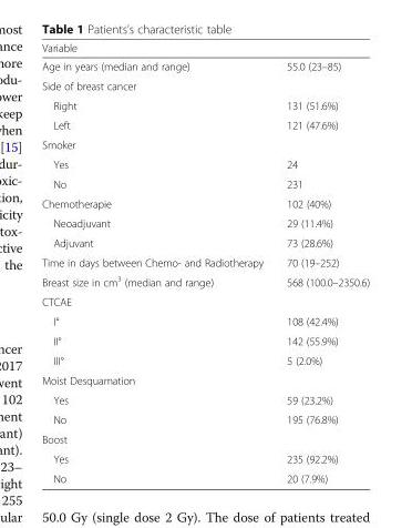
<table><thead><tr><td colspan="2">Variable</td></tr><tr><td>Age in years (median and range)</td><td>55.0 (23–85)</td></tr></thead><tbody><tr><td colspan="2">Side of breast cancer</td></tr><tr><td>Right</td><td>131 (51.6%)</td></tr><tr><td>Left</td><td>121 (47.6%)</td></tr><tr><td colspan="2">Smoker</td></tr><tr><td>Yes</td><td>24</td></tr><tr><td>No</td><td>231</td></tr><tr><td>Chemotherapie</td><td>102 (40%)</td></tr><tr><td>Neoadjuvant</td><td>29 (11.4%)</td></tr><tr><td>Adjuvant</td><td>73 (28.6%)</td></tr><tr><td>Time in days between Chemo- and Radiotherapy</td><td>70 (19–252)</td></tr><tr><td>Breast size in cm<sup>3</sup> (median and range)</td><td>568 (100.0–2350.6)</td></tr><tr><td colspan="2">CTCAE</td></tr><tr><td>I°</td><td>108 (42.4%)</td></tr><tr><td>II°</td><td>142 (55.9%)</td></tr><tr><td>III°</td><td>5 (2.0%)</td></tr><tr><td colspan="2">Moist Desquamation</td></tr><tr><td>Yes</td><td>59 (23.2%)</td></tr><tr><td>No</td><td>195 (76.8%)</td></tr><tr><td colspan="2">Boost</td></tr><tr><td>Yes</td><td>235 (92.2%)</td></tr><tr><td>No</td><td>20 (7.9%)</td></tr></tbody></table>